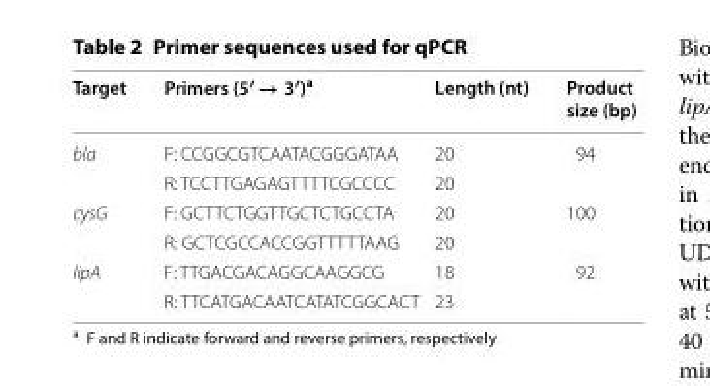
<table><thead><tr><td>Target</td><td>Primers (5′ → 3′)<sup>a</sup></td><td>Length (nt)</td><td>Product size (bp)</td></tr></thead><tbody><tr><td rowspan="2">bla</td><td>F: CCGGCGTCAATACGGGATAA</td><td>20</td><td rowspan="2">94</td></tr><tr><td>R: TCCTTGAGAGTTTTCGCCCC</td><td>20</td></tr><tr><td rowspan="2">cysG</td><td>F: GCTTCTGGTTGCTCTGCCTA</td><td>20</td><td rowspan="2">100</td></tr><tr><td>R: GCTCGCCACCGGTTTTTAAG</td><td>20</td></tr><tr><td rowspan="2">lipA</td><td>F: TTGACGACAGGCAAGGCG</td><td>18</td><td rowspan="2">92</td></tr><tr><td>R: TTCATGACAATCATATCGGCACT</td><td>23</td></tr></tbody></table>